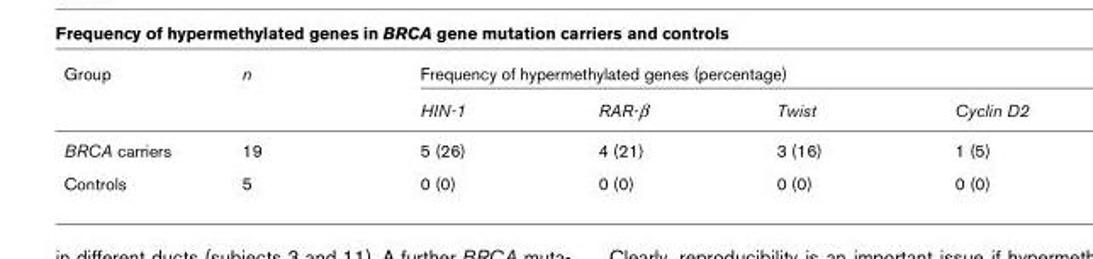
<table><thead><tr><td rowspan="2">Group</td><td rowspan="2">n</td><td colspan="4">Frequency of hypermethylated genes (percentage)</td></tr><tr><td>HIN-1</td><td>RAR-β</td><td>Twist</td><td>Cyclin D2</td></tr></thead><tbody><tr><td>BRCA carriers</td><td>19</td><td>5 (26)</td><td>4 (21)</td><td>3 (16)</td><td>1 (5)</td></tr><tr><td>Controls</td><td>5</td><td>0 (0)</td><td>0 (0)</td><td>0 (0)</td><td>0 (0)</td></tr></tbody></table>